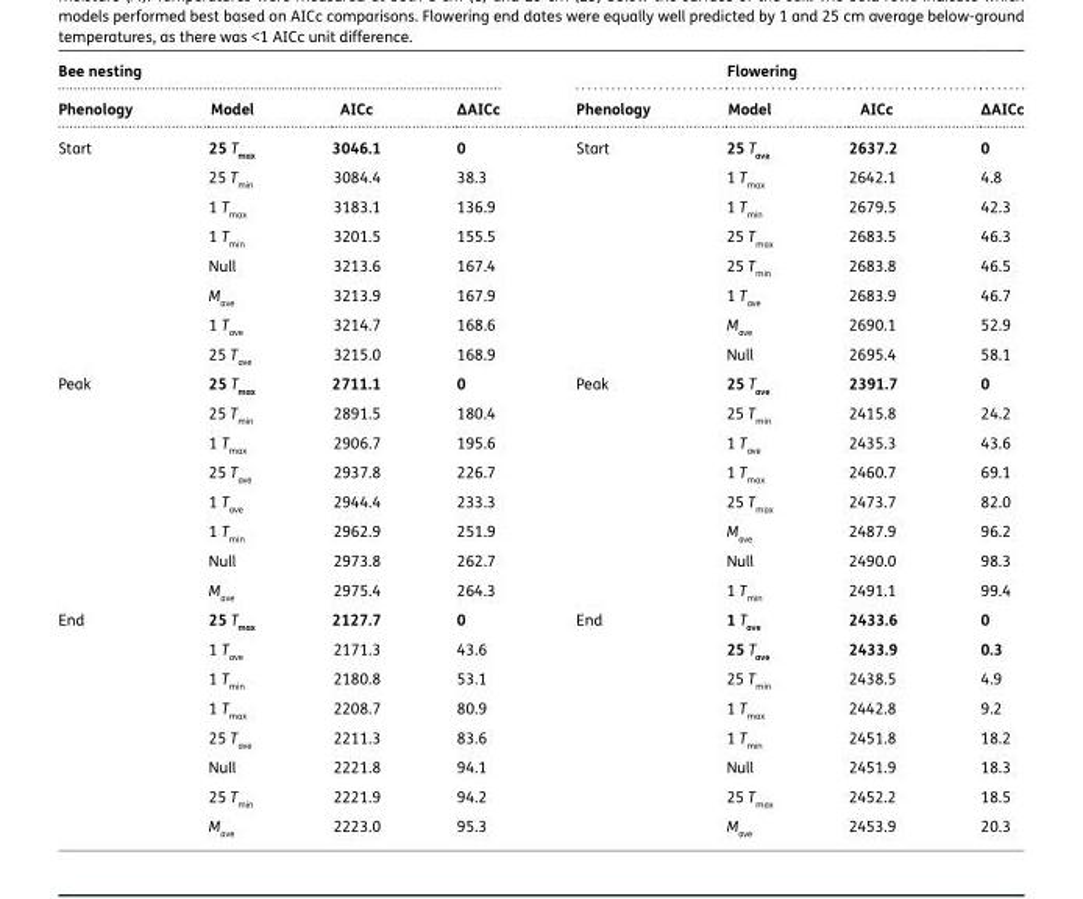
<table><thead><tr><td colspan="4">Bee nesting</td><td colspan="4">Flowering</td></tr><tr><td>Phenology</td><td>Model</td><td>AICc</td><td>∆AICc</td><td>Phenology</td><td>Model</td><td>AICc</td><td>∆AICc</td></tr></thead><tbody><tr><td rowspan="8">Start</td><td>25 T<sub>max</sub></td><td>3046.1</td><td>0</td><td rowspan="8">Start</td><td>25 T<sub>ave</sub></td><td>2637.2</td><td>0</td></tr><tr><td>25 T<sub>min</sub></td><td>3084.4</td><td>38.3</td><td>1 T<sub>max</sub></td><td>2642.1</td><td>4.8</td></tr><tr><td>1 T<sub>max</sub></td><td>3183.1</td><td>136.9</td><td>1 T<sub>min</sub></td><td>2679.5</td><td>42.3</td></tr><tr><td>1 T<sub>min</sub></td><td>3201.5</td><td>155.5</td><td>25 T<sub>max</sub></td><td>2683.5</td><td>46.3</td></tr><tr><td>Null</td><td>3213.6</td><td>167.4</td><td>25 T<sub>min</sub></td><td>2683.8</td><td>46.5</td></tr><tr><td>M<sub>ave</sub></td><td>3213.9</td><td>167.9</td><td>1 T<sub>ave</sub></td><td>2683.9</td><td>46.7</td></tr><tr><td>1 T<sub>ave</sub></td><td>3214.7</td><td>168.6</td><td>M<sub>ave</sub></td><td>2690.1</td><td>52.9</td></tr><tr><td>25 T<sub>ave</sub></td><td>3215.0</td><td>168.9</td><td>Null</td><td>2695.4</td><td>58.1</td></tr><tr><td rowspan="8">Peak</td><td>25 T<sub>max</sub></td><td>2711.1</td><td>0</td><td rowspan="8">Peak</td><td>25 T<sub>ave</sub></td><td>2391.7</td><td>0</td></tr><tr><td>25 T<sub>min</sub></td><td>2891.5</td><td>180.4</td><td>25 T<sub>min</sub></td><td>2415.8</td><td>24.2</td></tr><tr><td>1 T<sub>max</sub></td><td>2906.7</td><td>195.6</td><td>1 T<sub>ave</sub></td><td>2435.3</td><td>43.6</td></tr><tr><td>25 T<sub>ave</sub></td><td>2937.8</td><td>226.7</td><td>1 T<sub>max</sub></td><td>2460.7</td><td>69.1</td></tr><tr><td>1 T<sub>ave</sub></td><td>2944.4</td><td>233.3</td><td>25 T<sub>max</sub></td><td>2473.7</td><td>82.0</td></tr><tr><td>1 T<sub>min</sub></td><td>2962.9</td><td>251.9</td><td>M<sub>ave</sub></td><td>2487.9</td><td>96.2</td></tr><tr><td>Null</td><td>2973.8</td><td>262.7</td><td>Null</td><td>2490.0</td><td>98.3</td></tr><tr><td>M<sub>ave</sub></td><td>2975.4</td><td>264.3</td><td>1 T<sub>min</sub></td><td>2491.1</td><td>99.4</td></tr><tr><td rowspan="8">End</td><td>25 T<sub>max</sub></td><td>2127.7</td><td>0</td><td rowspan="8">End</td><td>1 T<sub>ave</sub></td><td>2433.6</td><td>0</td></tr><tr><td>1 T<sub>ave</sub></td><td>2171.3</td><td>43.6</td><td>25 T<sub>ave</sub></td><td>2433.9</td><td>0.3</td></tr><tr><td>1 T<sub>min</sub></td><td>2180.8</td><td>53.1</td><td>25 T<sub>min</sub></td><td>2438.5</td><td>4.9</td></tr><tr><td>1 T<sub>max</sub></td><td>2208.7</td><td>80.9</td><td>1 T<sub>max</sub></td><td>2442.8</td><td>9.2</td></tr><tr><td>25 T<sub>ave</sub></td><td>2211.3</td><td>83.6</td><td>1 T<sub>min</sub></td><td>2451.8</td><td>18.2</td></tr><tr><td>Null</td><td>2221.8</td><td>94.1</td><td>Null</td><td>2451.9</td><td>18.3</td></tr><tr><td>25 T<sub>min</sub></td><td>2221.9</td><td>94.2</td><td>25 T<sub>max</sub></td><td>2452.2</td><td>18.5</td></tr><tr><td>M<sub>ave</sub></td><td>2223.0</td><td>95.3</td><td>M<sub>ave</sub></td><td>2453.9</td><td>20.3</td></tr></tbody></table>